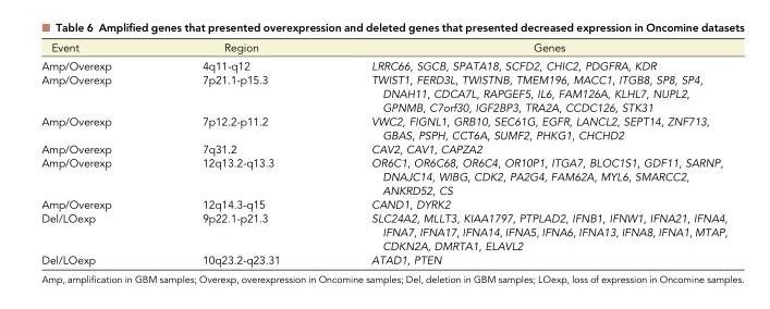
<table><thead><tr><td>Event</td><td>Region</td><td>Genes</td></tr></thead><tbody><tr><td>Amp/Overexp</td><td>4q11-q12</td><td>LRRC66, SGCB, SPATA18, SCFD2, CHIC2, PDGFRA, KDR</td></tr><tr><td>Amp/Overexp</td><td>7p21.1-p15.3</td><td>TWIST1, FERD3L, TWISTNB, TMEM196, MACC1, ITGB8, SP8, SP4, DNAH11, CDCA7L, RAPGEF5, IL6, FAM126A, KLHL7, NUPL2, GPNMB, C7orf30, IGF2BP3, TRA2A, CCDC126, STK31</td></tr><tr><td>Amp/Overexp</td><td>7p12.2-p11.2</td><td>VWC2, FIGNL1, GRB10, SEC61G, EGFR, LANCL2, SEPT14, ZNF713, GBAS, PSPH, CCT6A, SUMF2, PHKG1, CHCHD2</td></tr><tr><td>Amp/Overexp</td><td>7q31.2</td><td>CAV2, CAV1, CAPZA2</td></tr><tr><td>Amp/Overexp</td><td>12q13.2-q13.3</td><td>OR6C1, OR6C68, OR6C4, OR10P1, ITGA7, BLOC1S1, GDF11, SARNP, DNAJC14, WIBG, CDK2, PA2G4, FAM62A, MYL6, SMARCC2, ANKRD52, CS</td></tr><tr><td>Amp/Overexp</td><td>12q14.3-q15</td><td>CAND1, DYRK2</td></tr><tr><td>Del/LOexp</td><td>9p22.1-p21.3</td><td>SLC24A2, MLLT3, KIAA1797, PTPLAD2, IFNB1, IFNW1, IFNA21, IFNA4, IFNA7, IFNA17, IFNA14, IFNA5, IFNA6, IFNA13, IFNA8, IFNA1, MTAP, CDKN2A, DMRTA1, ELAVL2</td></tr><tr><td>Del/LOexp</td><td>10q23.2-q23.31</td><td>ATAD1, PTEN</td></tr></tbody></table>